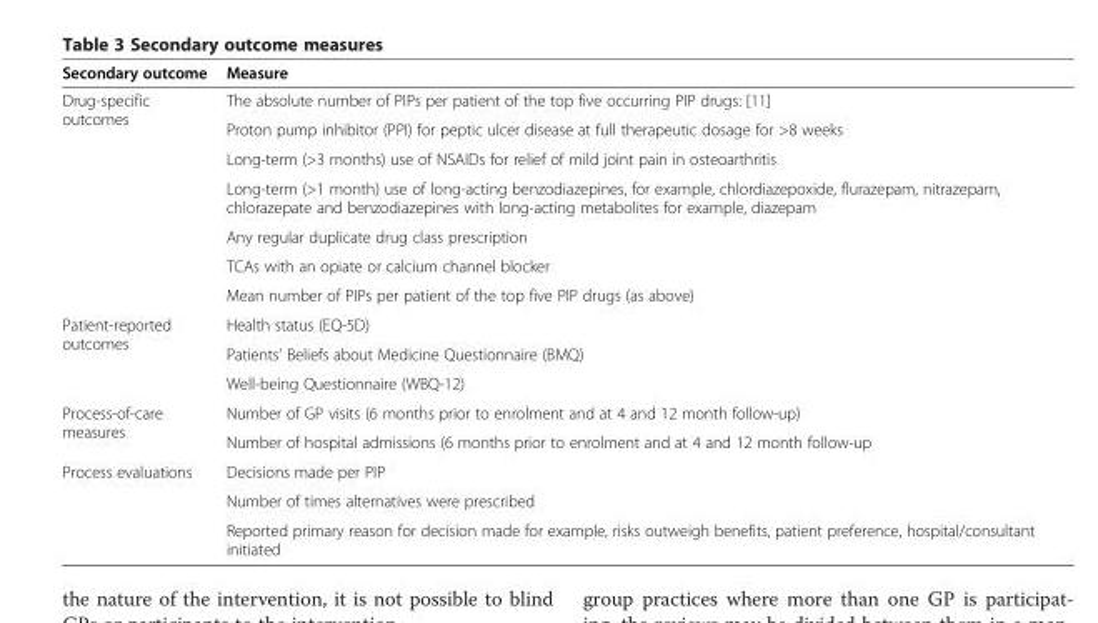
<table><thead><tr><td>Secondary outcome</td><td>Measure</td></tr></thead><tbody><tr><td rowspan="7">Drug-specific outcomes</td><td>The absolute number of PIPs per patient of the top five occurring PIP drugs: [11]</td></tr><tr><td>Proton pump inhibitor (PPI) for peptic ulcer disease at full therapeutic dosage for &gt;8 weeks</td></tr><tr><td>Long-term (&gt;3 months) use of NSAIDs for relief of mild joint pain in osteoarthritis</td></tr><tr><td>Long-term (&gt;1 month) use of long-acting benzodiazepines, for example, chlordiazepoxide, flurazepam, nitrazepam, chlorazepate and benzodiazepines with long-acting metabolites for example, diazepam</td></tr><tr><td>Any regular duplicate drug class prescription</td></tr><tr><td>TCAs with an opiate or calcium channel blocker</td></tr><tr><td>Mean number of PIPs per patient of the top five PIP drugs (as above)</td></tr><tr><td rowspan="3">Patient-reported outcomes</td><td>Health status (EQ-5D)</td></tr><tr><td>Patients’ Beliefs about Medicine Questionnaire (BMQ)</td></tr><tr><td>Well-being Questionnaire (WBQ-12)</td></tr><tr><td rowspan="2">Process-of-care measures</td><td>Number of GP visits (6 months prior to enrolment and at 4 and 12 month follow-up)</td></tr><tr><td>Number of hospital admissions (6 months prior to enrolment and at 4 and 12 month follow-up</td></tr><tr><td rowspan="3">Process evaluations</td><td>Decisions made per PIP</td></tr><tr><td>Number of times alternatives were prescribed</td></tr><tr><td>Reported primary reason for decision made for example, risks outweigh benefits, patient preference, hospital/consultant initiated</td></tr></tbody></table>